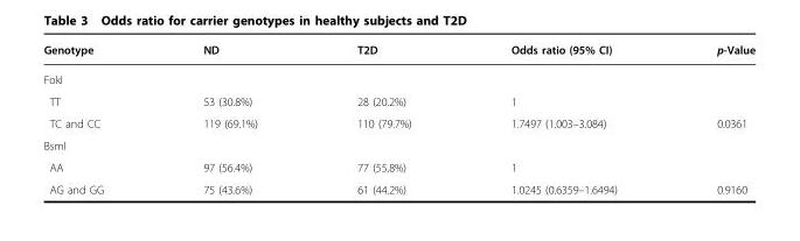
<table><thead><tr><td>Genotype</td><td>ND</td><td>T2D</td><td>Odds ratio (95% CI)</td><td>p-Value</td></tr></thead><tbody><tr><td colspan="5">FokI</td></tr><tr><td>TT</td><td>53 (30.8%)</td><td>28 (20.2%)</td><td>1</td><td></td></tr><tr><td>TC and CC</td><td>119 (69.1%)</td><td>110 (79.7%)</td><td>1.7497 (1.003–3.084)</td><td>0.0361</td></tr><tr><td colspan="5">BsmI</td></tr><tr><td>AA</td><td>97 (56.4%)</td><td>77 (55,8%)</td><td>1</td><td></td></tr><tr><td>AG and GG</td><td>75 (43.6%)</td><td>61 (44.2%)</td><td>1.0245 (0.6359–1.6494)</td><td>0.9160</td></tr></tbody></table>